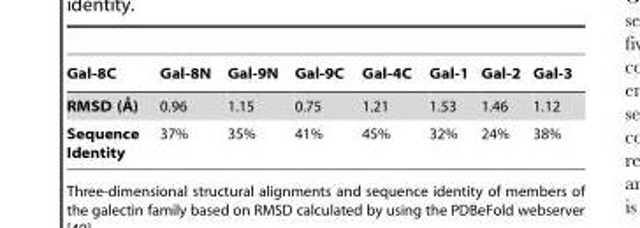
<table><thead><tr><td>Gal-8C</td><td>Gal-8N</td><td>Gal-9N</td><td>Gal-9C</td><td>Gal-4C</td><td>Gal-1</td><td>Gal-2</td><td>Gal-3</td></tr></thead><tbody><tr><td>RMSD (A˚)</td><td>0.96</td><td>1.15</td><td>0.75</td><td>1.21</td><td>1.53</td><td>1.46</td><td>1.12</td></tr><tr><td>Sequence Identity</td><td>37%</td><td>35%</td><td>41%</td><td>45%</td><td>32%</td><td>24%</td><td>38%</td></tr></tbody></table>